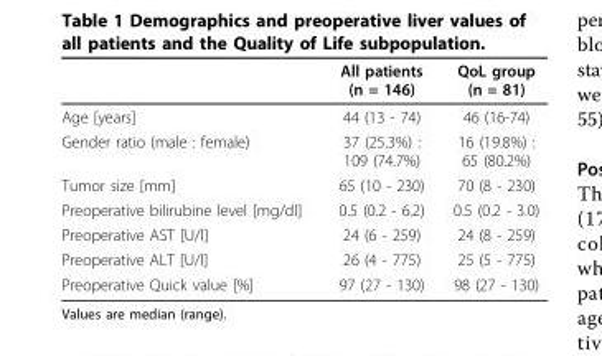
<table><thead><tr><td></td><td>All patients (n = 146)</td><td>QoL group (n = 81)</td></tr></thead><tbody><tr><td>Age [years]</td><td>44 (13 - 74)</td><td>46 (16-74)</td></tr><tr><td>Gender ratio (male : female)</td><td>37 (25.3%) : 109 (74.7%)</td><td>16 (19.8%) : 65 (80.2%)</td></tr><tr><td>Tumor size [mm]</td><td>65 (10 - 230)</td><td>70 (8 - 230)</td></tr><tr><td>Preoperative bilirubine level [mg/dl]</td><td>0.5 (0.2 - 6.2)</td><td>0.5 (0.2 - 3.0)</td></tr><tr><td>Preoperative AST [U/l]</td><td>24 (6 - 259)</td><td>24 (8 - 259)</td></tr><tr><td>Preoperative ALT [U/l]</td><td>26 (4 - 775)</td><td>25 (5 - 775)</td></tr><tr><td>Preoperative Quick value [%]</td><td>97 (27 - 130)</td><td>98 (27 - 130)</td></tr></tbody></table>